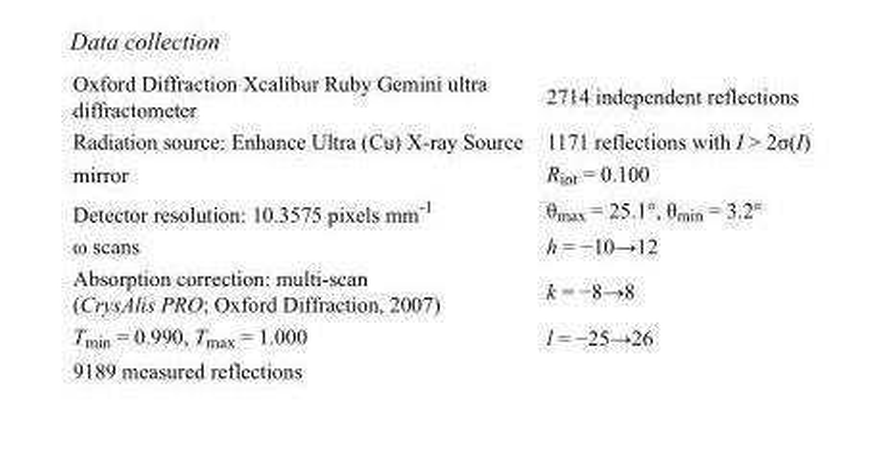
<table><tbody><tr><td>Oxford Diffraction Xcalibur Ruby Gemini ultra diffractometer</td><td>2714 independent reflections</td></tr><tr><td>Radiation source: Enhance Ultra (Cu) X-ray Source</td><td>1171 reflections with I &gt; 2σ(I)</td></tr><tr><td>mirror</td><td>R<sub>int</sub> = 0.100</td></tr><tr><td>Detector resolution: 10.3575 pixels mm<sup>-1</sup></td><td>θ<sub>max</sub> = 25.1°, θ<sub>min</sub> = 3.2°</td></tr><tr><td>ω scans</td><td>h = −10→12</td></tr><tr><td>Absorption correction: multi-scan (CrysAlis PRO; Oxford Diffraction, 2007)</td><td>k = −8→8</td></tr><tr><td>T<sub>min</sub> = 0.990, T<sub>max</sub> = 1.000</td><td>l = −25→26</td></tr><tr><td>9189 measured reflections</td><td></td></tr></tbody></table>